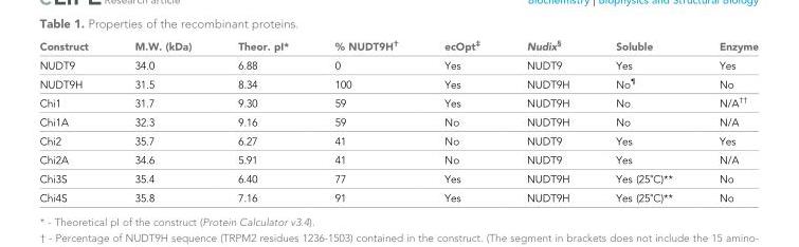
<table><thead><tr><td>Construct</td><td>M.W. (kDa)</td><td>Theor. pI*</td><td>% NUDT9H<sup>†</sup></td><td>ecOpt<sup>‡</sup></td><td>Nudix<sup>§</sup></td><td>Soluble</td><td>Enzyme</td></tr></thead><tbody><tr><td>NUDT9</td><td>34.0</td><td>6.88</td><td>0</td><td>Yes</td><td>NUDT9</td><td>Yes</td><td>Yes</td></tr><tr><td>NUDT9H</td><td>31.5</td><td>8.34</td><td>100</td><td>Yes</td><td>NUDT9H</td><td>No<sup>¶</sup></td><td>No</td></tr><tr><td>Chi1</td><td>31.7</td><td>9.30</td><td>59</td><td>Yes</td><td>NUDT9H</td><td>No</td><td>N/A<sup>††</sup></td></tr><tr><td>Chi1A</td><td>32.3</td><td>9.16</td><td>59</td><td>No</td><td>NUDT9H</td><td>No</td><td>N/A</td></tr><tr><td>Chi2</td><td>35.7</td><td>6.27</td><td>41</td><td>No</td><td>NUDT9</td><td>Yes</td><td>Yes</td></tr><tr><td>Chi2A</td><td>34.6</td><td>5.91</td><td>41</td><td>No</td><td>NUDT9</td><td>Yes</td><td>N/A</td></tr><tr><td>Chi3S</td><td>35.4</td><td>6.40</td><td>77</td><td>Yes</td><td>NUDT9H</td><td>Yes (25˚C)**</td><td>No</td></tr><tr><td>Chi4S</td><td>35.8</td><td>7.16</td><td>91</td><td>Yes</td><td>NUDT9H</td><td>Yes (25˚C)**</td><td>No</td></tr></tbody></table>